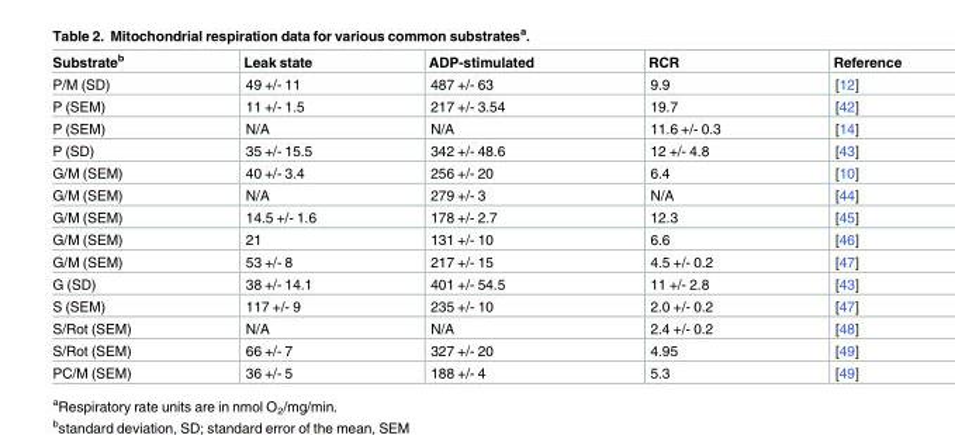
<table><thead><tr><td>Substrate<sup>b</sup></td><td>Leak state</td><td>ADP-stimulated</td><td>RCR</td><td>Reference</td></tr></thead><tbody><tr><td>P/M (SD)</td><td>49 +/- 11</td><td>487 +/- 63</td><td>9.9</td><td>[12]</td></tr><tr><td>P (SEM)</td><td>11 +/- 1.5</td><td>217 +/- 3.54</td><td>19.7</td><td>[42]</td></tr><tr><td>P (SEM)</td><td>N/A</td><td>N/A</td><td>11.6 +/- 0.3</td><td>[14]</td></tr><tr><td>P (SD)</td><td>35 +/- 15.5</td><td>342 +/- 48.6</td><td>12 +/- 4.8</td><td>[43]</td></tr><tr><td>G/M (SEM)</td><td>40 +/- 3.4</td><td>256 +/- 20</td><td>6.4</td><td>[10]</td></tr><tr><td>G/M (SEM)</td><td>N/A</td><td>279 +/- 3</td><td>N/A</td><td>[44]</td></tr><tr><td>G/M (SEM)</td><td>14.5 +/- 1.6</td><td>178 +/- 2.7</td><td>12.3</td><td>[45]</td></tr><tr><td>G/M (SEM)</td><td>21</td><td>131 +/- 10</td><td>6.6</td><td>[46]</td></tr><tr><td>G/M (SEM)</td><td>53 +/- 8</td><td>217 +/- 15</td><td>4.5 +/- 0.2</td><td>[47]</td></tr><tr><td>G (SD)</td><td>38 +/- 14.1</td><td>401 +/- 54.5</td><td>11 +/- 2.8</td><td>[43]</td></tr><tr><td>S (SEM)</td><td>117 +/- 9</td><td>235 +/- 10</td><td>2.0 +/- 0.2</td><td>[47]</td></tr><tr><td>S/Rot (SEM)</td><td>N/A</td><td>N/A</td><td>2.4 +/- 0.2</td><td>[48]</td></tr><tr><td>S/Rot (SEM)</td><td>66 +/- 7</td><td>327 +/- 20</td><td>4.95</td><td>[49]</td></tr><tr><td>PC/M (SEM)</td><td>36 +/- 5</td><td>188 +/- 4</td><td>5.3</td><td>[49]</td></tr></tbody></table>